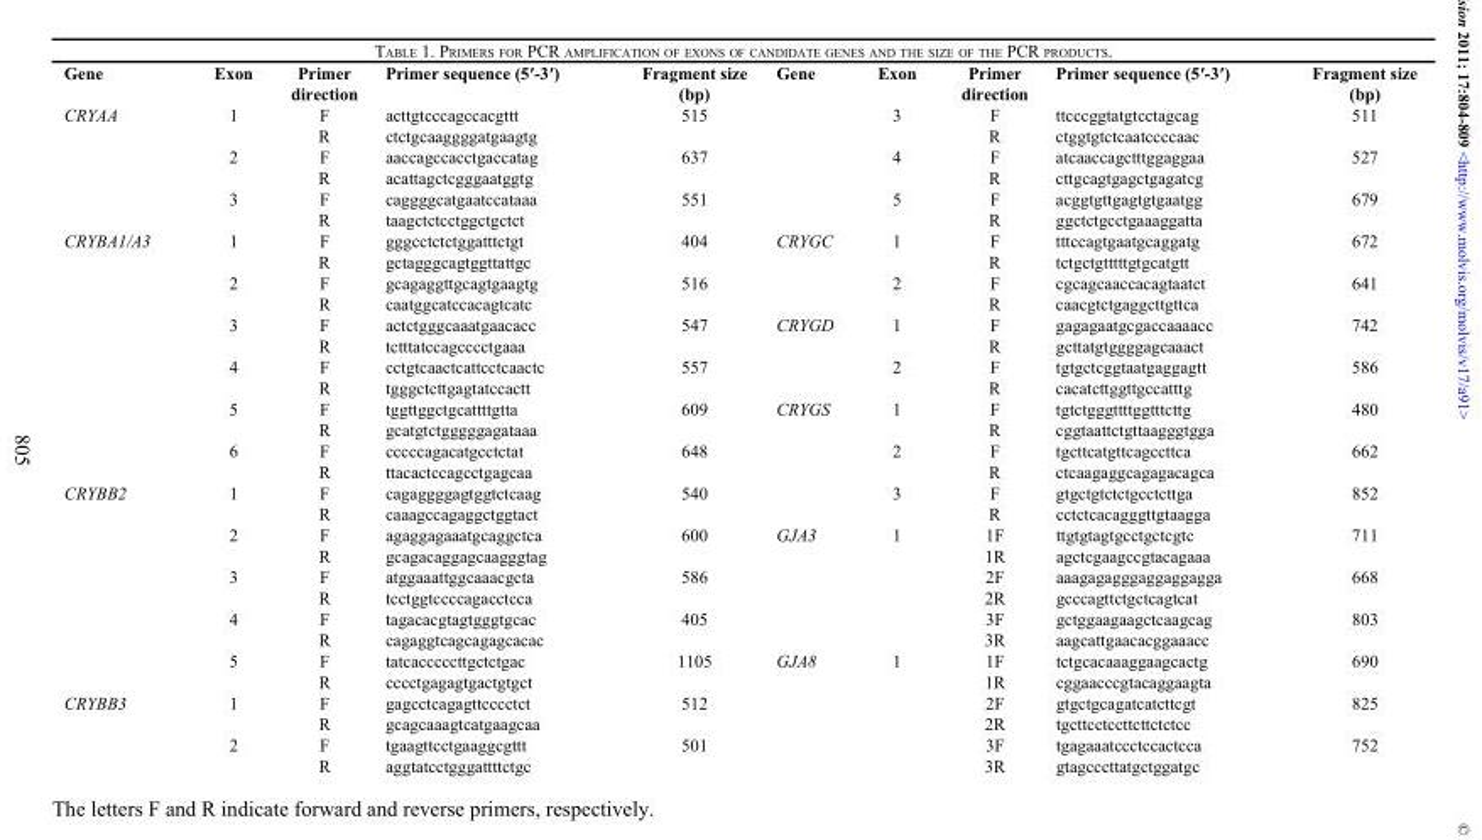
<table><tbody><tr><td>Gene</td><td>Exon</td><td>Primer direction</td><td>Primer sequence (5′-3′)</td><td>Fragment size (bp)</td><td>Gene</td><td>Exon</td><td>Primer direction</td><td>Primer sequence (5′-3′)</td><td>Fragment size (bp)</td></tr><tr><td rowspan="6">CRYAA</td><td>1</td><td>F</td><td>acttgtcccagccacgttt</td><td>515</td><td></td><td>3</td><td>F</td><td>ttcccggtatgtcctagcag</td><td>511</td></tr><tr><td></td><td>R</td><td>ctctgcaaggggatgaagtg</td><td></td><td></td><td></td><td>R</td><td>ctggtgtctcaatccccaac</td><td></td></tr><tr><td>2</td><td>F</td><td>aaccagccacctgaccatag</td><td>637</td><td></td><td>4</td><td>F</td><td>atcaaccagctttggaggaa</td><td>527</td></tr><tr><td></td><td>R</td><td>acattagctcgggaatggtg</td><td></td><td></td><td></td><td>R</td><td>cttgcagtgagctgagatcg</td><td></td></tr><tr><td>3</td><td>F</td><td>caggggcatgaatccataaa</td><td>551</td><td></td><td>5</td><td>F</td><td>acggtgttgagtgtgaatgg</td><td>679</td></tr><tr><td></td><td>R</td><td>taagctctcctggctgctct</td><td></td><td></td><td></td><td>R</td><td>ggctctgcctgaaaggatta</td><td></td></tr><tr><td rowspan="12">CRYBA1/A3</td><td>1</td><td>F</td><td>gggcctctctggatttctgt</td><td>404</td><td>CRYGC</td><td>1</td><td>F</td><td>tttccagtgaatgcaggatg</td><td>672</td></tr><tr><td></td><td>R</td><td>gctagggcagtggttattgc</td><td></td><td></td><td></td><td>R</td><td>tctgctgtttttgtgcatgtt</td><td></td></tr><tr><td>2</td><td>F</td><td>gcagaggttgcagtgaagtg</td><td>516</td><td></td><td>2</td><td>F</td><td>cgcagcaaccacagtaatct</td><td>641</td></tr><tr><td></td><td>R</td><td>caatggcatccacagtcatc</td><td></td><td></td><td></td><td>R</td><td>caacgtctgaggcttgttca</td><td></td></tr><tr><td>3</td><td>F</td><td>actctgggcaaatgaacacc</td><td>547</td><td>CRYGD</td><td>1</td><td>F</td><td>gagagaatgcgaccaaaacc</td><td>742</td></tr><tr><td></td><td>R</td><td>tctttatccagcccctgaaa</td><td></td><td></td><td></td><td>R</td><td>gcttatgtggggagcaaact</td><td></td></tr><tr><td>4</td><td>F</td><td>cctgtcaactcattcctcaactc</td><td>557</td><td></td><td>2</td><td>F</td><td>tgtgctcggtaatgaggagtt</td><td>586</td></tr><tr><td></td><td>R</td><td>tgggctcttgagtatccactt</td><td></td><td></td><td></td><td>R</td><td>cacatcttggttgccatttg</td><td></td></tr><tr><td>5</td><td>F</td><td>tggttggctgcattttgtta</td><td>609</td><td>CRYGS</td><td>1</td><td>F</td><td>tgtctgggttttggtttcttg</td><td>480</td></tr><tr><td></td><td>R</td><td>gcatgtctgggggagataaa</td><td></td><td></td><td></td><td>R</td><td>cggtaattctgttaagggtgga</td><td></td></tr><tr><td>6</td><td>F</td><td>cccccagacatgcctctat</td><td>648</td><td></td><td>2</td><td>F</td><td>tgcttcatgttcagccttca</td><td>662</td></tr><tr><td></td><td>R</td><td>ttacactccagcctgagcaa</td><td></td><td></td><td></td><td>R</td><td>ctcaagaggcagagacagca</td><td></td></tr><tr><td rowspan="10">CRYBB2</td><td>1</td><td>F</td><td>cagaggggagtggtctcaag</td><td>540</td><td></td><td>3</td><td>F</td><td>gtgctgtctctgcctcttga</td><td>852</td></tr><tr><td></td><td>R</td><td>caaagccagaggctggtact</td><td></td><td></td><td></td><td>R</td><td>cctctcacagggttgtaagga</td><td></td></tr><tr><td>2</td><td>F</td><td>agaggagaaatgcaggctca</td><td>600</td><td>GJA3</td><td>1</td><td>1F</td><td>ttgtgtagtgcctgctcgtc</td><td>711</td></tr><tr><td></td><td>R</td><td>gcagacaggagcaagggtag</td><td></td><td></td><td></td><td>1R</td><td>agctcgaagccgtacagaaa</td><td></td></tr><tr><td>3</td><td>F</td><td>atggaaattggcaaacgcta</td><td>586</td><td></td><td></td><td>2F</td><td>aaagagagggaggaggagga</td><td>668</td></tr><tr><td></td><td>R</td><td>tcctggtccccagacctcca</td><td></td><td></td><td></td><td>2R</td><td>gcccagttctgctcagtcat</td><td></td></tr><tr><td>4</td><td>F</td><td>tagacacgtagtgggtgcac</td><td>405</td><td></td><td></td><td>3F</td><td>gctggaagaagctcaagcag</td><td>803</td></tr><tr><td></td><td>R</td><td>cagaggtcagcagagcacac</td><td></td><td></td><td></td><td>3R</td><td>aagcattgaacacggaaacc</td><td></td></tr><tr><td>5</td><td>F</td><td>tatcacccccttgctctgac</td><td>1105</td><td>GJA8</td><td>1</td><td>1F</td><td>tctgcacaaaggaagcactg</td><td>690</td></tr><tr><td></td><td>R</td><td>cccctgagagtgactgtgct</td><td></td><td></td><td></td><td>1R</td><td>cggaacccgtacaggaagta</td><td></td></tr><tr><td rowspan="4">CRYBB3</td><td>1</td><td>F</td><td>gagcctcagagttcccctct</td><td>512</td><td></td><td></td><td>2F</td><td>gtgctgcagatcatcttcgt</td><td>825</td></tr><tr><td></td><td>R</td><td>gcagcaaagtcatgaagcaa</td><td></td><td></td><td></td><td>2R</td><td>tgcttcctccttcttctctcc</td><td></td></tr><tr><td>2</td><td>F</td><td>tgaagttcctgaaggcgttt</td><td>501</td><td></td><td></td><td>3F</td><td>tgagaaatccctccactcca</td><td>752</td></tr><tr><td></td><td>R</td><td>aggtatcctgggattttctgc</td><td></td><td></td><td></td><td>3R</td><td>gtagcccttatgctggatgc</td><td></td></tr></tbody></table>